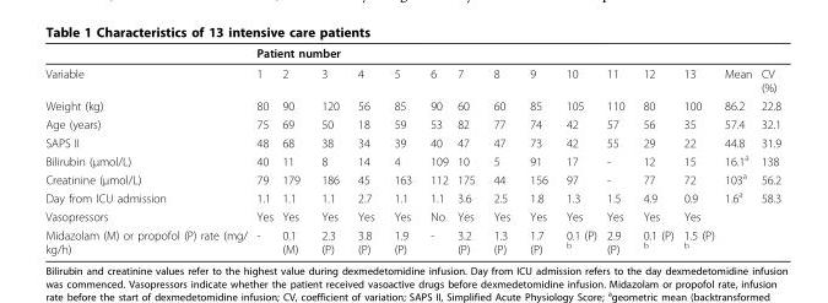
<table><thead><tr><td rowspan="2">Variable</td><td colspan="13">Patient number</td><td rowspan="2">Mean</td><td rowspan="2">CV (%)</td></tr><tr><td>1</td><td>2</td><td>3</td><td>4</td><td>5</td><td>6</td><td>7</td><td>8</td><td>9</td><td>10</td><td>11</td><td>12</td><td>13</td></tr></thead><tbody><tr><td>Weight (kg)</td><td>80</td><td>90</td><td>120</td><td>56</td><td>85</td><td>90</td><td>60</td><td>60</td><td>85</td><td>105</td><td>110</td><td>80</td><td>100</td><td>86.2</td><td>22.8</td></tr><tr><td>Age (years)</td><td>75</td><td>69</td><td>50</td><td>18</td><td>59</td><td>53</td><td>82</td><td>77</td><td>74</td><td>42</td><td>57</td><td>56</td><td>35</td><td>57.4</td><td>32.1</td></tr><tr><td>SAPS II</td><td>48</td><td>68</td><td>38</td><td>34</td><td>39</td><td>40</td><td>47</td><td>47</td><td>73</td><td>42</td><td>55</td><td>29</td><td>22</td><td>44.8</td><td>31.9</td></tr><tr><td>Bilirubin (μmol/L)</td><td>40</td><td>11</td><td>8</td><td>14</td><td>4</td><td>109</td><td>10</td><td>5</td><td>91</td><td>17</td><td>-</td><td>12</td><td>15</td><td>16.1<sup>a</sup></td><td>138</td></tr><tr><td>Creatinine (μmol/L)</td><td>79</td><td>179</td><td>186</td><td>45</td><td>163</td><td>112</td><td>175</td><td>44</td><td>156</td><td>97</td><td>-</td><td>77</td><td>72</td><td>103<sup>a</sup></td><td>56.2</td></tr><tr><td>Day from ICU admission</td><td>1.1</td><td>1.1</td><td>1.1</td><td>2.7</td><td>1.1</td><td>1.1</td><td>3.6</td><td>2.5</td><td>1.8</td><td>1.3</td><td>1.5</td><td>4.9</td><td>0.9</td><td>1.6<sup>a</sup></td><td>58.3</td></tr><tr><td>Vasopressors</td><td>Yes</td><td>Yes</td><td>Yes</td><td>Yes</td><td>Yes</td><td>No</td><td>Yes</td><td>Yes</td><td>Yes</td><td>Yes</td><td>Yes</td><td>Yes</td><td>Yes</td><td></td><td></td></tr><tr><td>Midazolam (M) or propofol (P) rate (mg/ kg/h)</td><td>-</td><td>0.1 (M)</td><td>2.3 (P)</td><td>3.8 (P)</td><td>1.9 (P)</td><td>-</td><td>3.2 (P)</td><td>1.3 (P)</td><td>1.7 (P)</td><td>0.1 (P) <sup>b</sup></td><td>2.9 (P)</td><td>0.1 (P) <sup>b</sup></td><td>1.5 (P) <sup>b</sup></td><td></td><td></td></tr></tbody></table>